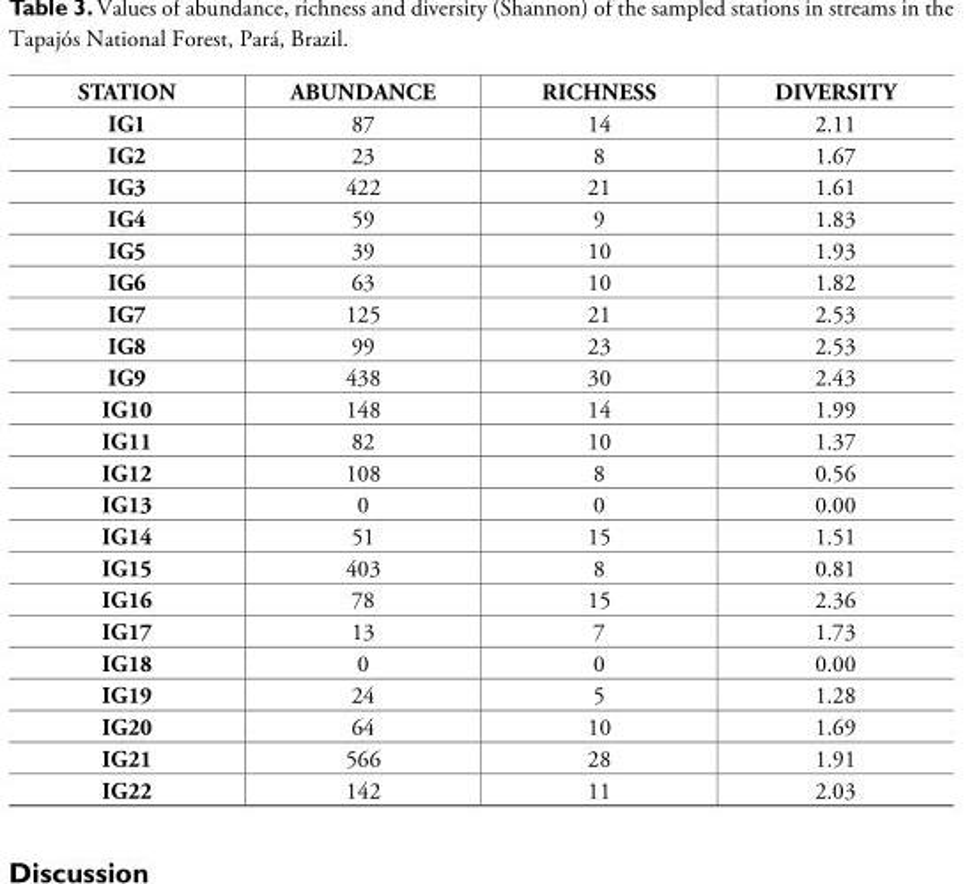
<table><thead><tr><td>STATION</td><td>ABUNDANCE</td><td>RICHNESS</td><td>DIVERSITY</td></tr></thead><tbody><tr><td>IG1</td><td>87</td><td>14</td><td>2.11</td></tr><tr><td>IG2</td><td>23</td><td>8</td><td>1.67</td></tr><tr><td>IG3</td><td>422</td><td>21</td><td>1.61</td></tr><tr><td>IG4</td><td>59</td><td>9</td><td>1.83</td></tr><tr><td>IG5</td><td>39</td><td>10</td><td>1.93</td></tr><tr><td>IG6</td><td>63</td><td>10</td><td>1.82</td></tr><tr><td>IG7</td><td>125</td><td>21</td><td>2.53</td></tr><tr><td>IG8</td><td>99</td><td>23</td><td>2.53</td></tr><tr><td>IG9</td><td>438</td><td>30</td><td>2.43</td></tr><tr><td>IG10</td><td>148</td><td>14</td><td>1.99</td></tr><tr><td>IG11</td><td>82</td><td>10</td><td>1.37</td></tr><tr><td>IG12</td><td>108</td><td>8</td><td>0.56</td></tr><tr><td>IG13</td><td>0</td><td>0</td><td>0.00</td></tr><tr><td>IG14</td><td>51</td><td>15</td><td>1.51</td></tr><tr><td>IG15</td><td>403</td><td>8</td><td>0.81</td></tr><tr><td>IG16</td><td>78</td><td>15</td><td>2.36</td></tr><tr><td>IG17</td><td>13</td><td>7</td><td>1.73</td></tr><tr><td>IG18</td><td>0</td><td>0</td><td>0.00</td></tr><tr><td>IG19</td><td>24</td><td>5</td><td>1.28</td></tr><tr><td>IG20</td><td>64</td><td>10</td><td>1.69</td></tr><tr><td>IG21</td><td>566</td><td>28</td><td>1.91</td></tr><tr><td>IG22</td><td>142</td><td>11</td><td>2.03</td></tr></tbody></table>